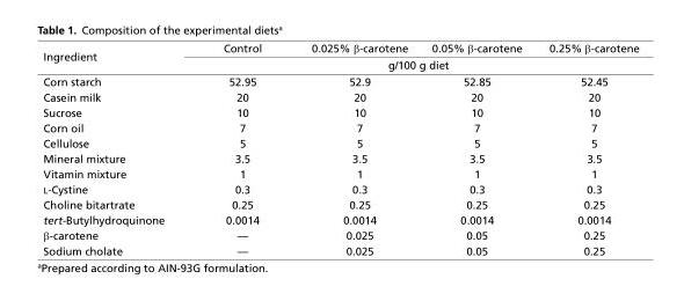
<table><thead><tr><td rowspan="2">Ingredient</td><td>Control</td><td>0.025% β-carotene</td><td>0.05% β-carotene</td><td>0.25% β-carotene</td></tr><tr><td colspan="4">g/100 g diet</td></tr></thead><tbody><tr><td>Corn starch</td><td>52.95</td><td>52.9</td><td>52.85</td><td>52.45</td></tr><tr><td>Casein milk</td><td>20</td><td>20</td><td>20</td><td>20</td></tr><tr><td>Sucrose</td><td>10</td><td>10</td><td>10</td><td>10</td></tr><tr><td>Corn oil</td><td>7</td><td>7</td><td>7</td><td>7</td></tr><tr><td>Cellulose</td><td>5</td><td>5</td><td>5</td><td>5</td></tr><tr><td>Mineral mixture</td><td>3.5</td><td>3.5</td><td>3.5</td><td>3.5</td></tr><tr><td>Vitamin mixture</td><td>1</td><td>1</td><td>1</td><td>1</td></tr><tr><td>L-Cystine</td><td>0.3</td><td>0.3</td><td>0.3</td><td>0.3</td></tr><tr><td>Choline bitartrate</td><td>0.25</td><td>0.25</td><td>0.25</td><td>0.25</td></tr><tr><td>tert-Butylhydroquinone</td><td>0.0014</td><td>0.0014</td><td>0.0014</td><td>0.0014</td></tr><tr><td>β-carotene</td><td>—</td><td>0.025</td><td>0.05</td><td>0.25</td></tr><tr><td>Sodium cholate</td><td>—</td><td>0.025</td><td>0.05</td><td>0.25</td></tr></tbody></table>